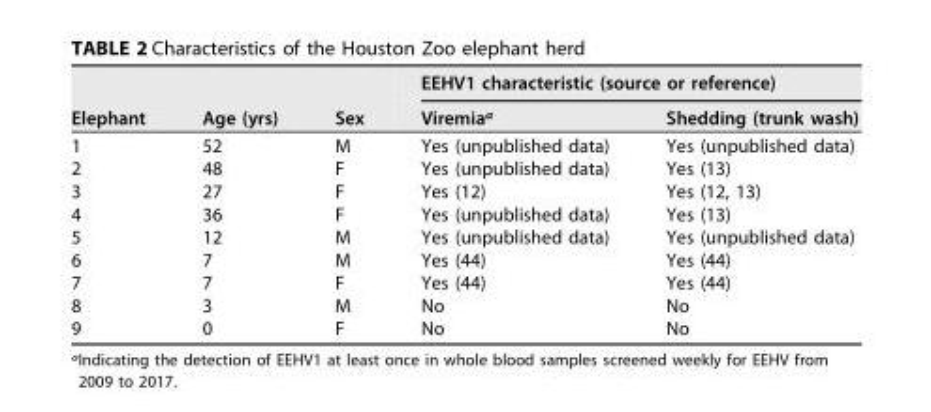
<table><thead><tr><td rowspan="2">Elephant</td><td rowspan="2">Age (yrs)</td><td rowspan="2">Sex</td><td colspan="2">EEHV1 characteristic (source or reference)</td></tr><tr><td>Viremia<sup>a</sup></td><td>Shedding (trunk wash)</td></tr></thead><tbody><tr><td>1</td><td>52</td><td>M</td><td>Yes (unpublished data)</td><td>Yes (unpublished data)</td></tr><tr><td>2</td><td>48</td><td>F</td><td>Yes (unpublished data)</td><td>Yes (13)</td></tr><tr><td>3</td><td>27</td><td>F</td><td>Yes (12)</td><td>Yes (12, 13)</td></tr><tr><td>4</td><td>36</td><td>F</td><td>Yes (unpublished data)</td><td>Yes (13)</td></tr><tr><td>5</td><td>12</td><td>M</td><td>Yes (unpublished data)</td><td>Yes (unpublished data)</td></tr><tr><td>6</td><td>7</td><td>M</td><td>Yes (44)</td><td>Yes (44)</td></tr><tr><td>7</td><td>7</td><td>F</td><td>Yes (44)</td><td>Yes (44)</td></tr><tr><td>8</td><td>3</td><td>M</td><td>No</td><td>No</td></tr><tr><td>9</td><td>0</td><td>F</td><td>No</td><td>No</td></tr></tbody></table>